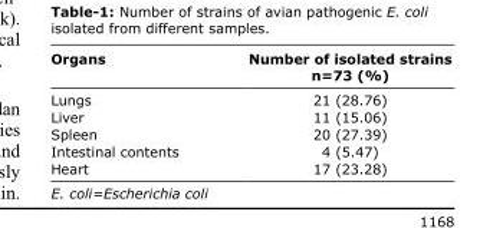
<table><thead><tr><td>Organs</td><td>Number of isolated strains n=73 (%)</td></tr></thead><tbody><tr><td>Lungs</td><td>21 (28.76)</td></tr><tr><td>Liver</td><td>11 (15.06)</td></tr><tr><td>Spleen</td><td>20 (27.39)</td></tr><tr><td>Intestinal contents</td><td>4 (5.47)</td></tr><tr><td>Heart</td><td>17 (23.28)</td></tr></tbody></table>